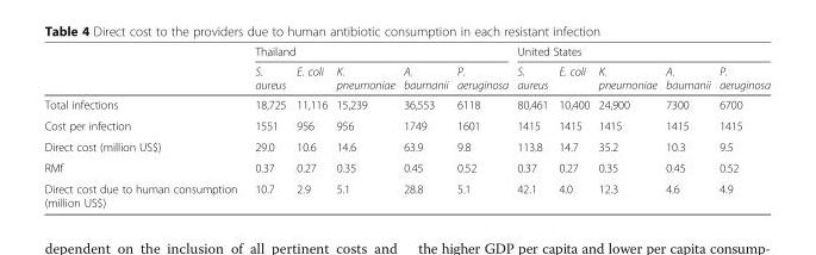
<table><thead><tr><td rowspan="2"></td><td colspan="5">Thailand</td><td colspan="5">United States</td></tr><tr><td>S. aureus</td><td>E. coli</td><td>K. pneumoniae</td><td>A. baumanii</td><td>P. aeruginosa</td><td>S. aureus</td><td>E. coli</td><td>K. pneumoniae</td><td>A. baumanii</td><td>P. aeruginosa</td></tr></thead><tbody><tr><td>Total infections</td><td>18,725</td><td>11,116</td><td>15,239</td><td>36,553</td><td>6118</td><td>80,461</td><td>10,400</td><td>24,900</td><td>7300</td><td>6700</td></tr><tr><td>Cost per infection</td><td>1551</td><td>956</td><td>956</td><td>1749</td><td>1601</td><td>1415</td><td>1415</td><td>1415</td><td>1415</td><td>1415</td></tr><tr><td>Direct cost (million US$)</td><td>29.0</td><td>10.6</td><td>14.6</td><td>63.9</td><td>9.8</td><td>113.8</td><td>14.7</td><td>35.2</td><td>10.3</td><td>9.5</td></tr><tr><td>RMf</td><td>0.37</td><td>0.27</td><td>0.35</td><td>0.45</td><td>0.52</td><td>0.37</td><td>0.27</td><td>0.35</td><td>0.45</td><td>0.52</td></tr><tr><td>Direct cost due to human consumption (million US$)</td><td>10.7</td><td>2.9</td><td>5.1</td><td>28.8</td><td>5.1</td><td>42.1</td><td>4.0</td><td>12.3</td><td>4.6</td><td>4.9</td></tr></tbody></table>